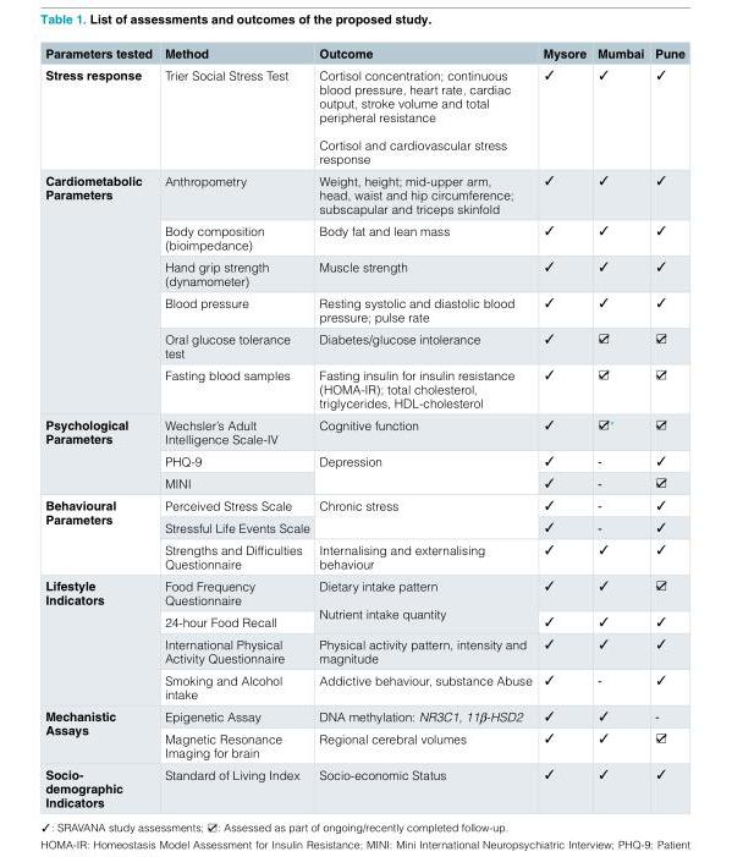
<table><thead><tr><td>Parameters tested</td><td>Method</td><td>Outcome</td><td>Mysore</td><td>Mumbai</td><td>Pune</td></tr></thead><tbody><tr><td>Stress response</td><td>Trier Social Stress Test</td><td>Cortisol concentration; continuous blood pressure, heart rate, cardiac output, stroke volume and total peripheral resistance Cortisol and cardiovascular stress response</td><td>✓</td><td>✓</td><td>✓</td></tr><tr><td rowspan="6">Cardiometabolic Parameters</td><td>Anthropometry</td><td>Weight, height; mid-upper arm, head, waist and hip circumference; subscapular and triceps skinfold</td><td>✓</td><td>✓</td><td>✓</td></tr><tr><td>Body composition (bioimpedance)</td><td>Body fat and lean mass</td><td>✓</td><td>✓</td><td>✓</td></tr><tr><td>Hand grip strength (dynamometer)</td><td>Muscle strength</td><td>✓</td><td>✓</td><td>✓</td></tr><tr><td>Blood pressure</td><td>Resting systolic and diastolic blood pressure; pulse rate</td><td>✓</td><td>✓</td><td>✓</td></tr><tr><td>Oral glucose tolerance test</td><td>Diabetes/glucose intolerance</td><td>✓</td><td>☑</td><td>☑</td></tr><tr><td>Fasting blood samples</td><td>Fasting insulin for insulin resistance (HOMA-IR); total cholesterol, triglycerides, HDL-cholesterol</td><td>✓</td><td>☑</td><td>☑</td></tr><tr><td rowspan="3">Psychological Parameters</td><td>Wechsler’s Adult Intelligence Scale-IV</td><td>Cognitive function</td><td>✓</td><td>☑*</td><td>☑</td></tr><tr><td>PHQ-9</td><td rowspan="2">Depression</td><td>✓</td><td>-</td><td>✓</td></tr><tr><td>MINI</td><td>✓</td><td>-</td><td>☑</td></tr><tr><td rowspan="3">Behavioural Parameters</td><td>Perceived Stress Scale</td><td rowspan="2">Chronic stress</td><td>✓</td><td>-</td><td>✓</td></tr><tr><td>Stressful Life Events Scale</td><td>✓</td><td>-</td><td>✓</td></tr><tr><td>Strengths and Difficulties Questionnaire</td><td>Internalising and externalising behaviour</td><td>✓</td><td>✓</td><td>✓</td></tr><tr><td rowspan="4">Lifestyle Indicators</td><td>Food Frequency Questionnaire</td><td rowspan="2">Dietary intake pattern Nutrient intake quantity</td><td>✓</td><td>✓</td><td>☑</td></tr><tr><td>24-hour Food Recall</td><td>✓</td><td>✓</td><td>✓</td></tr><tr><td>International Physical Activity Questionnaire</td><td>Physical activity pattern, intensity and magnitude</td><td>✓</td><td>✓</td><td>✓</td></tr><tr><td>Smoking and Alcohol intake</td><td>Addictive behaviour, substance Abuse</td><td>✓</td><td>-</td><td>✓</td></tr><tr><td rowspan="2">Mechanistic Assays</td><td>Epigenetic Assay</td><td>DNA methylation: NR3C1, 11β-HSD2</td><td>✓</td><td>✓</td><td>-</td></tr><tr><td>Magnetic Resonance Imaging for brain</td><td>Regional cerebral volumes</td><td>✓</td><td>✓</td><td>☑</td></tr><tr><td>Socio- demographic Indicators</td><td>Standard of Living Index</td><td>Socio-economic Status</td><td>✓</td><td>✓</td><td>✓</td></tr></tbody></table>